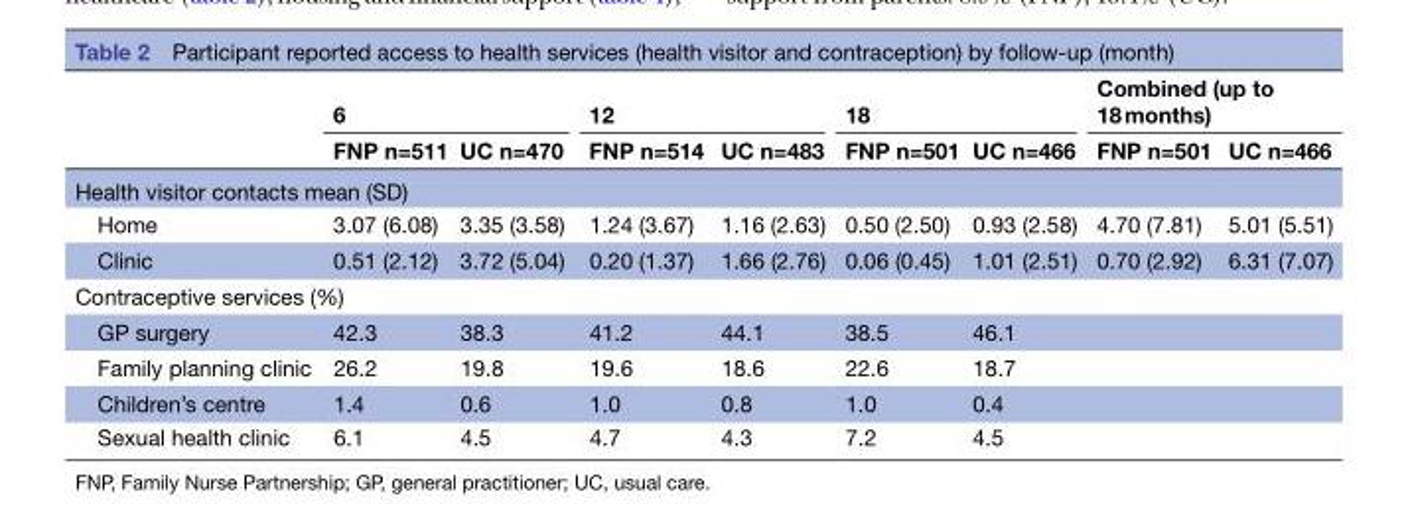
<table><thead><tr><td rowspan="2"></td><td colspan="2">6</td><td colspan="2">12</td><td colspan="2">18</td><td colspan="2">Combined (up to 18 months)</td></tr><tr><td>FNP n=511</td><td>UC n=470</td><td>FNP n=514</td><td>UC n=483</td><td>FNP n=501</td><td>UC n=466</td><td>FNP n=501</td><td>UC n=466</td></tr></thead><tbody><tr><td colspan="9">Health visitor contacts mean (SD)</td></tr><tr><td>Home</td><td>3.07 (6.08)</td><td>3.35 (3.58)</td><td>1.24 (3.67)</td><td>1.16 (2.63)</td><td>0.50 (2.50)</td><td>0.93 (2.58)</td><td>4.70 (7.81)</td><td>5.01 (5.51)</td></tr><tr><td>Clinic</td><td>0.51 (2.12)</td><td>3.72 (5.04)</td><td>0.20 (1.37)</td><td>1.66 (2.76)</td><td>0.06 (0.45)</td><td>1.01 (2.51)</td><td>0.70 (2.92)</td><td>6.31 (7.07)</td></tr><tr><td colspan="9">Contraceptive services (%)</td></tr><tr><td>GP surgery</td><td>42.3</td><td>38.3</td><td>41.2</td><td>44.1</td><td>38.5</td><td>46.1</td><td></td><td></td></tr><tr><td>Family planning clinic</td><td>26.2</td><td>19.8</td><td>19.6</td><td>18.6</td><td>22.6</td><td>18.7</td><td></td><td></td></tr><tr><td>Children’s centre</td><td>1.4</td><td>0.6</td><td>1.0</td><td>0.8</td><td>1.0</td><td>0.4</td><td></td><td></td></tr><tr><td>Sexual health clinic</td><td>6.1</td><td>4.5</td><td>4.7</td><td>4.3</td><td>7.2</td><td>4.5</td><td></td><td></td></tr></tbody></table>